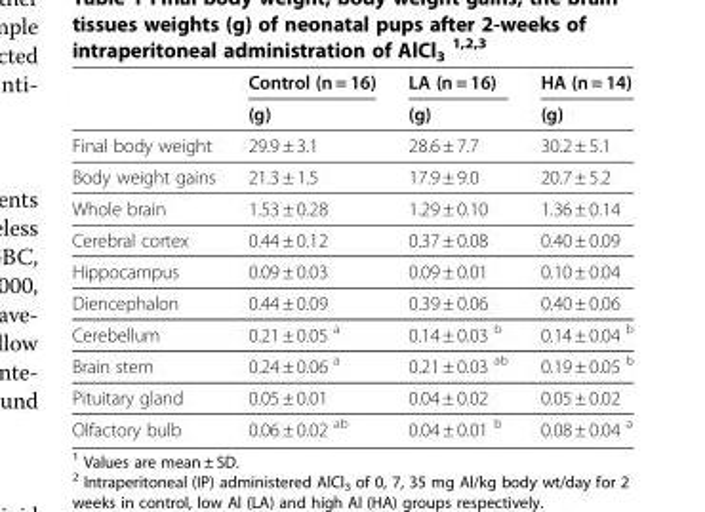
<table><thead><tr><td rowspan="2"></td><td rowspan="2">Control (n = 16) (g)</td><td rowspan="2">LA (n = 16) (g)</td><td rowspan="2">HA (n = 14) (g)</td></tr><tr></tr></thead><tbody><tr><td>Final body weight</td><td>29.9 ± 3.1</td><td>28.6 ± 7.7</td><td>30.2 ± 5.1</td></tr><tr><td>Body weight gains</td><td>21.3 ± 1.5</td><td>17.9 ± 9.0</td><td>20.7 ± 5.2</td></tr><tr><td>Whole brain</td><td>1.53 ± 0.28</td><td>1.29 ± 0.10</td><td>1.36 ± 0.14</td></tr><tr><td>Cerebral cortex</td><td>0.44 ± 0.12</td><td>0.37 ± 0.08</td><td>0.40 ± 0.09</td></tr><tr><td>Hippocampus</td><td>0.09 ± 0.03</td><td>0.09 ± 0.01</td><td>0.10 ± 0.04</td></tr><tr><td>Diencephalon</td><td>0.44 ± 0.09</td><td>0.39 ± 0.06</td><td>0.40 ± 0.06</td></tr><tr><td>Cerebellum</td><td>0.21 ± 0.05 <sup>a</sup></td><td>0.14 ± 0.03 <sup>b</sup></td><td>0.14 ± 0.04 <sup>b</sup></td></tr><tr><td>Brain stem</td><td>0.24 ± 0.06 <sup>a</sup></td><td>0.21 ± 0.03 <sup>ab</sup></td><td>0.19 ± 0.05 <sup>b</sup></td></tr><tr><td>Pituitary gland</td><td>0.05 ± 0.01</td><td>0.04 ± 0.02</td><td>0.05 ± 0.02</td></tr><tr><td>Olfactory bulb</td><td>0.06 ± 0.02 <sup>ab</sup></td><td>0.04 ± 0.01 <sup>b</sup></td><td>0.08 ± 0.04 <sup>a</sup></td></tr></tbody></table>